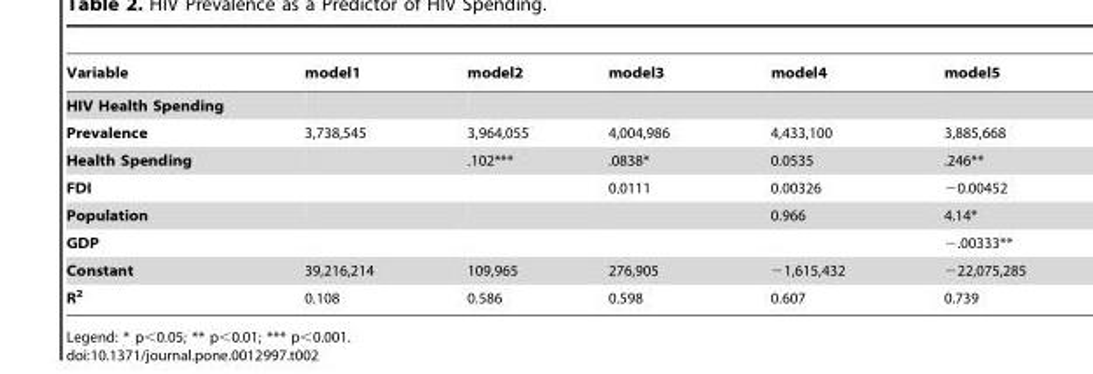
<table><thead><tr><td>Variable</td><td>model1</td><td>model2</td><td>model3</td><td>model4</td><td>model5</td></tr></thead><tbody><tr><td colspan="6">HIV Health Spending</td></tr><tr><td>Prevalence</td><td>3,738,545</td><td>3,964,055</td><td>4,004,986</td><td>4,433,100</td><td>3,885,668</td></tr><tr><td>Health Spending</td><td></td><td>.102***</td><td>.0838*</td><td>0.0535</td><td>.246**</td></tr><tr><td>FDI</td><td></td><td></td><td>0.0111</td><td>0.00326</td><td>−0.00452</td></tr><tr><td>Population</td><td></td><td></td><td></td><td>0.966</td><td>4.14*</td></tr><tr><td>GDP</td><td></td><td></td><td></td><td></td><td>−.00333**</td></tr><tr><td>Constant</td><td>39,216,214</td><td>109,965</td><td>276,905</td><td>−1,615,432</td><td>−22,075,285</td></tr><tr><td>R<sup>2</sup></td><td>0.108</td><td>0.586</td><td>0.598</td><td>0.607</td><td>0.739</td></tr></tbody></table>